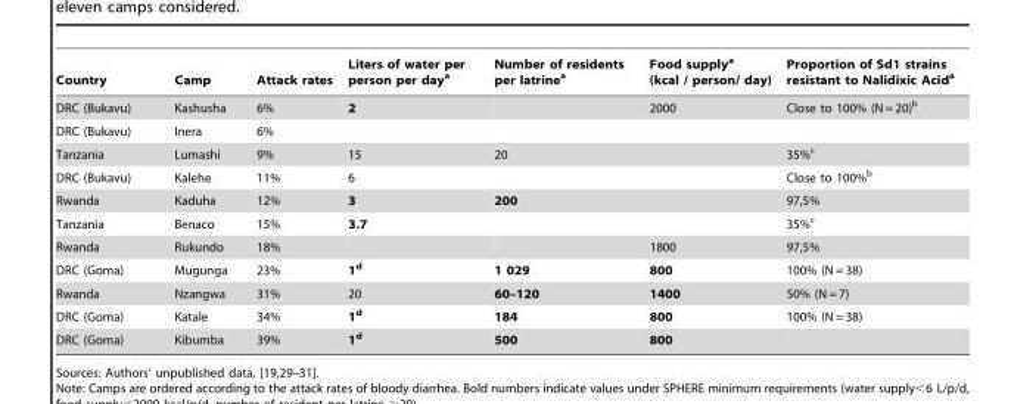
<table><thead><tr><td>Country</td><td>Camp</td><td>Attack rates</td><td>Liters of water per person per day<sup>a</sup></td><td>Number of residents per latrine<sup>a</sup></td><td>Food supply<sup>a</sup> (kcal / person/ day)</td><td>Proportion of Sd1 strains resistant to Nalidixic Acid<sup>a</sup></td></tr></thead><tbody><tr><td>DRC (Bukavu)</td><td>Kashusha</td><td>6%</td><td>2</td><td></td><td>2000</td><td>Close to 100% (N = 20)<sup>b</sup></td></tr><tr><td>DRC (Bukavu)</td><td>Inera</td><td>6%</td><td></td><td></td><td></td><td></td></tr><tr><td>Tanzania</td><td>Lumashi</td><td>9%</td><td>15</td><td>20</td><td></td><td>35%<sup>c</sup></td></tr><tr><td>DRC (Bukavu)</td><td>Kalehe</td><td>11%</td><td>6</td><td></td><td></td><td>Close to 100%<sup>b</sup></td></tr><tr><td>Rwanda</td><td>Kaduha</td><td>12%</td><td>3</td><td>200</td><td></td><td>97,5%</td></tr><tr><td>Tanzania</td><td>Benaco</td><td>15%</td><td>3.7</td><td></td><td></td><td>35%<sup>c</sup></td></tr><tr><td>Rwanda</td><td>Rukundo</td><td>18%</td><td></td><td></td><td>1800</td><td>97,5%</td></tr><tr><td>DRC (Goma)</td><td>Mugunga</td><td>23%</td><td>1d</td><td>1 029</td><td>800</td><td>100% (N = 38)</td></tr><tr><td>Rwanda</td><td>Nzangwa</td><td>31%</td><td>20</td><td>60–120</td><td>1400</td><td>50% (N = 7)</td></tr><tr><td>DRC (Goma)</td><td>Katale</td><td>34%</td><td>1d</td><td>184</td><td>800</td><td>100% (N = 38)</td></tr><tr><td>DRC (Goma)</td><td>Kibumba</td><td>39%</td><td>1d</td><td>500</td><td>800</td><td></td></tr></tbody></table>